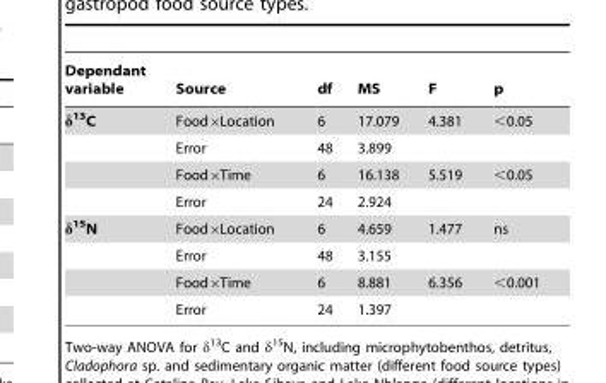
<table><thead><tr><td>Dependant variable</td><td>Source</td><td>df</td><td>MS</td><td>F</td><td>p</td></tr></thead><tbody><tr><td rowspan="4">δ<sup>13</sup>C</td><td>Food×Location</td><td>6</td><td>17.079</td><td>4.381</td><td>&lt;0.05</td></tr><tr><td>Error</td><td>48</td><td>3.899</td><td></td><td></td></tr><tr><td>Food×Time</td><td>6</td><td>16.138</td><td>5.519</td><td>&lt;0.05</td></tr><tr><td>Error</td><td>24</td><td>2.924</td><td></td><td></td></tr><tr><td rowspan="4">δ<sup>15</sup>N</td><td>Food×Location</td><td>6</td><td>4.659</td><td>1.477</td><td>ns</td></tr><tr><td>Error</td><td>48</td><td>3.155</td><td></td><td></td></tr><tr><td>Food×Time</td><td>6</td><td>8.881</td><td>6.356</td><td>&lt;0.001</td></tr><tr><td>Error</td><td>24</td><td>1.397</td><td></td><td></td></tr></tbody></table>